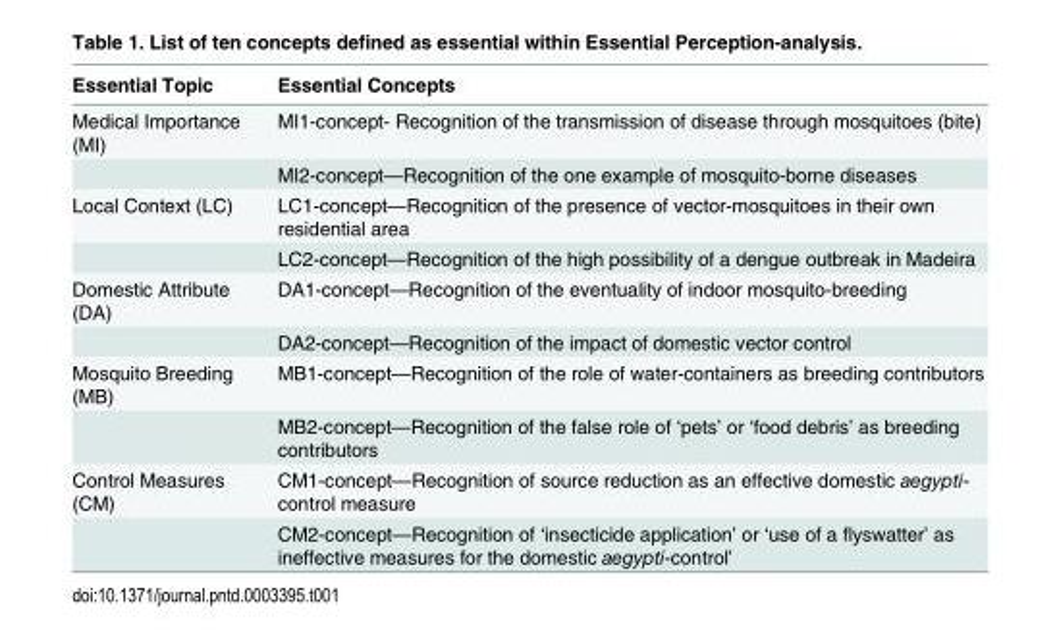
<table><thead><tr><td>Essential Topic</td><td>Essential Concepts</td></tr></thead><tbody><tr><td rowspan="2">Medical Importance (MI)</td><td>MI1-concept- Recognition of the transmission of disease through mosquitoes (bite)</td></tr><tr><td>MI2-concept—Recognition of the one example of mosquito-borne diseases</td></tr><tr><td rowspan="2">Local Context (LC)</td><td>LC1-concept—Recognition of the presence of vector-mosquitoes in their own residential area</td></tr><tr><td>LC2-concept—Recognition of the high possibility of a dengue outbreak in Madeira</td></tr><tr><td rowspan="2">Domestic Attribute (DA)</td><td>DA1-concept—Recognition of the eventuality of indoor mosquito-breeding</td></tr><tr><td>DA2-concept—Recognition of the impact of domestic vector control</td></tr><tr><td rowspan="2">Mosquito Breeding (MB)</td><td>MB1-concept—Recognition of the role of water-containers as breeding contributors</td></tr><tr><td>MB2-concept—Recognition of the false role of ‘pets’ or ‘food debris’ as breeding contributors</td></tr><tr><td rowspan="2">Control Measures (CM)</td><td>CM1-concept—Recognition of source reduction as an effective domestic aegypti- control measure</td></tr><tr><td>CM2-concept—Recognition of ‘insecticide application’ or ‘use of a flyswatter’ as ineffective measures for the domestic aegypti-control’</td></tr></tbody></table>